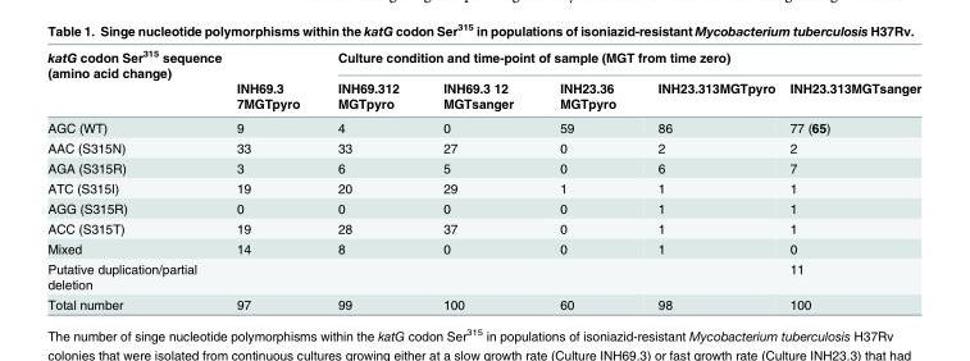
<table><thead><tr><td rowspan="2">katG codon Ser<sup>315</sup> sequence (amino acid change)</td><td rowspan="2">INH69.3 7MGTpyro</td><td colspan="5">Culture condition and time-point of sample (MGT from time zero)</td></tr><tr><td>INH69.312 MGTpyro</td><td>INH69.3 12 MGTsanger</td><td>INH23.36 MGTpyro</td><td>INH23.313MGTpyro</td><td>INH23.313MGTsanger</td></tr></thead><tbody><tr><td>AGC (WT)</td><td>9</td><td>4</td><td>0</td><td>59</td><td>86</td><td>77 (65)</td></tr><tr><td>AAC (S315N)</td><td>33</td><td>33</td><td>27</td><td>0</td><td>2</td><td>2</td></tr><tr><td>AGA (S315R)</td><td>3</td><td>6</td><td>5</td><td>0</td><td>6</td><td>7</td></tr><tr><td>ATC (S315I)</td><td>19</td><td>20</td><td>29</td><td>1</td><td>1</td><td>1</td></tr><tr><td>AGG (S315R)</td><td>0</td><td>0</td><td>0</td><td>0</td><td>1</td><td>1</td></tr><tr><td>ACC (S315T)</td><td>19</td><td>28</td><td>37</td><td>0</td><td>1</td><td>1</td></tr><tr><td>Mixed</td><td>14</td><td>8</td><td>0</td><td>0</td><td>1</td><td>0</td></tr><tr><td>Putative duplication/partial deletion</td><td></td><td></td><td></td><td></td><td></td><td>11</td></tr><tr><td>Total number</td><td>97</td><td>99</td><td>100</td><td>60</td><td>98</td><td>100</td></tr></tbody></table>